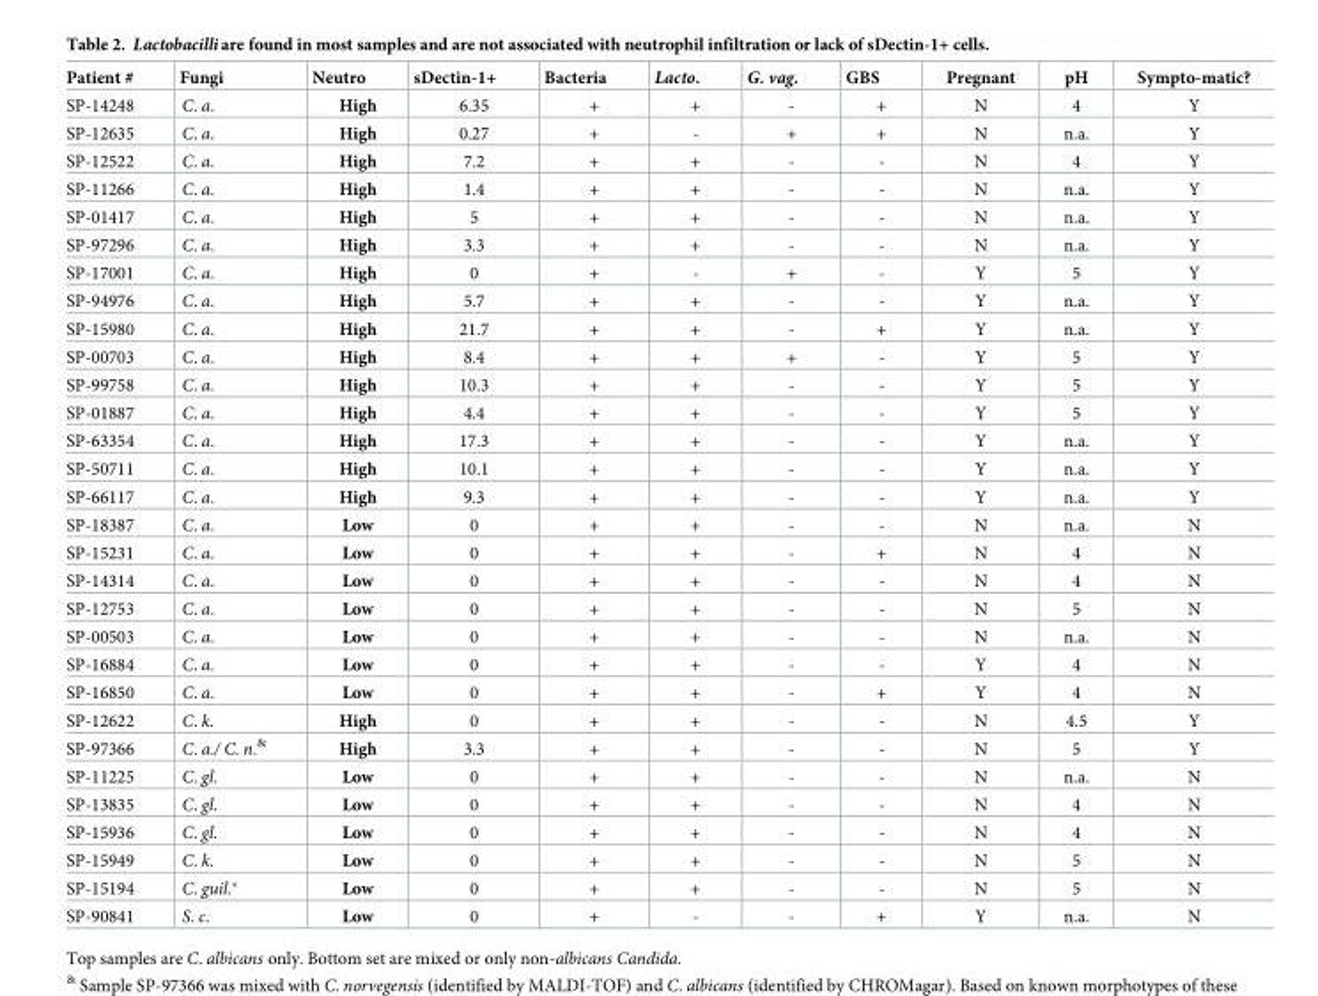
<table><thead><tr><td>Patient #</td><td>Fungi</td><td>Neutro</td><td>sDectin-1+</td><td>Bacteria</td><td>Lacto.</td><td>G. vag.</td><td>GBS</td><td>Pregnant</td><td>pH</td><td>Sympto-matic?</td></tr></thead><tbody><tr><td>SP-14248</td><td>C. a.</td><td>High</td><td>6.35</td><td>+</td><td>+</td><td>-</td><td>+</td><td>N</td><td>4</td><td>Y</td></tr><tr><td>SP-12635</td><td>C. a.</td><td>High</td><td>0.27</td><td>+</td><td>-</td><td>+</td><td>+</td><td>N</td><td>n.a.</td><td>Y</td></tr><tr><td>SP-12522</td><td>C. a.</td><td>High</td><td>7.2</td><td>+</td><td>+</td><td>-</td><td>-</td><td>N</td><td>4</td><td>Y</td></tr><tr><td>SP-11266</td><td>C. a.</td><td>High</td><td>1.4</td><td>+</td><td>+</td><td>-</td><td>-</td><td>N</td><td>n.a.</td><td>Y</td></tr><tr><td>SP-01417</td><td>C. a.</td><td>High</td><td>5</td><td>+</td><td>+</td><td>-</td><td>-</td><td>N</td><td>n.a.</td><td>Y</td></tr><tr><td>SP-97296</td><td>C. a.</td><td>High</td><td>3.3</td><td>+</td><td>+</td><td>-</td><td>-</td><td>N</td><td>n.a.</td><td>Y</td></tr><tr><td>SP-17001</td><td>C. a.</td><td>High</td><td>0</td><td>+</td><td>-</td><td>+</td><td>-</td><td>Y</td><td>5</td><td>Y</td></tr><tr><td>SP-94976</td><td>C. a.</td><td>High</td><td>5.7</td><td>+</td><td>+</td><td>-</td><td>-</td><td>Y</td><td>n.a.</td><td>Y</td></tr><tr><td>SP-15980</td><td>C. a.</td><td>High</td><td>21.7</td><td>+</td><td>+</td><td>-</td><td>+</td><td>Y</td><td>n.a.</td><td>Y</td></tr><tr><td>SP-00703</td><td>C. a.</td><td>High</td><td>8.4</td><td>+</td><td>+</td><td>+</td><td>-</td><td>Y</td><td>5</td><td>Y</td></tr><tr><td>SP-99758</td><td>C. a.</td><td>High</td><td>10.3</td><td>+</td><td>+</td><td>-</td><td>-</td><td>Y</td><td>5</td><td>Y</td></tr><tr><td>SP-01887</td><td>C. a.</td><td>High</td><td>4.4</td><td>+</td><td>+</td><td>-</td><td>-</td><td>Y</td><td>5</td><td>Y</td></tr><tr><td>SP-63354</td><td>C. a.</td><td>High</td><td>17.3</td><td>+</td><td>+</td><td>-</td><td>-</td><td>Y</td><td>n.a.</td><td>Y</td></tr><tr><td>SP-50711</td><td>C. a.</td><td>High</td><td>10.1</td><td>+</td><td>+</td><td>-</td><td>-</td><td>Y</td><td>n.a.</td><td>Y</td></tr><tr><td>SP-66117</td><td>C. a.</td><td>High</td><td>9.3</td><td>+</td><td>+</td><td>-</td><td>-</td><td>Y</td><td>n.a.</td><td>Y</td></tr><tr><td>SP-18387</td><td>C. a.</td><td>Low</td><td>0</td><td>+</td><td>+</td><td>-</td><td>-</td><td>N</td><td>n.a.</td><td>N</td></tr><tr><td>SP-15231</td><td>C. a.</td><td>Low</td><td>0</td><td>+</td><td>+</td><td>-</td><td>+</td><td>N</td><td>4</td><td>N</td></tr><tr><td>SP-14314</td><td>C. a.</td><td>Low</td><td>0</td><td>+</td><td>+</td><td>-</td><td>-</td><td>N</td><td>4</td><td>N</td></tr><tr><td>SP-12753</td><td>C. a.</td><td>Low</td><td>0</td><td>+</td><td>+</td><td>-</td><td>-</td><td>N</td><td>5</td><td>N</td></tr><tr><td>SP-00503</td><td>C. a.</td><td>Low</td><td>0</td><td>+</td><td>+</td><td>-</td><td>-</td><td>N</td><td>n.a.</td><td>N</td></tr><tr><td>SP-16884</td><td>C. a.</td><td>Low</td><td>0</td><td>+</td><td>+</td><td>-</td><td>-</td><td>Y</td><td>4</td><td>N</td></tr><tr><td>SP-16850</td><td>C. a.</td><td>Low</td><td>0</td><td>+</td><td>+</td><td>-</td><td>+</td><td>Y</td><td>4</td><td>N</td></tr><tr><td>SP-12622</td><td>C. k.</td><td>High</td><td>0</td><td>+</td><td>+</td><td>-</td><td>-</td><td>N</td><td>4.5</td><td>Y</td></tr><tr><td>SP-97366</td><td>C. a./ C. n.<sup>&amp;</sup></td><td>High</td><td>3.3</td><td>+</td><td>+</td><td>-</td><td>-</td><td>N</td><td>5</td><td>Y</td></tr><tr><td>SP-11225</td><td>C. gl.</td><td>Low</td><td>0</td><td>+</td><td>+</td><td>-</td><td>-</td><td>N</td><td>n.a.</td><td>N</td></tr><tr><td>SP-13835</td><td>C. gl.</td><td>Low</td><td>0</td><td>+</td><td>+</td><td>-</td><td>-</td><td>N</td><td>4</td><td>N</td></tr><tr><td>SP-15936</td><td>C. gl.</td><td>Low</td><td>0</td><td>+</td><td>+</td><td>-</td><td>-</td><td>N</td><td>4</td><td>N</td></tr><tr><td>SP-15949</td><td>C. k.</td><td>Low</td><td>0</td><td>+</td><td>+</td><td>-</td><td>-</td><td>N</td><td>5</td><td>N</td></tr><tr><td>SP-15194</td><td>C. guil.*</td><td>Low</td><td>0</td><td>+</td><td>+</td><td>-</td><td>-</td><td>N</td><td>5</td><td>N</td></tr><tr><td>SP-90841</td><td>S. c.</td><td>Low</td><td>0</td><td>+</td><td>-</td><td>-</td><td>+</td><td>Y</td><td>n.a.</td><td>N</td></tr></tbody></table>